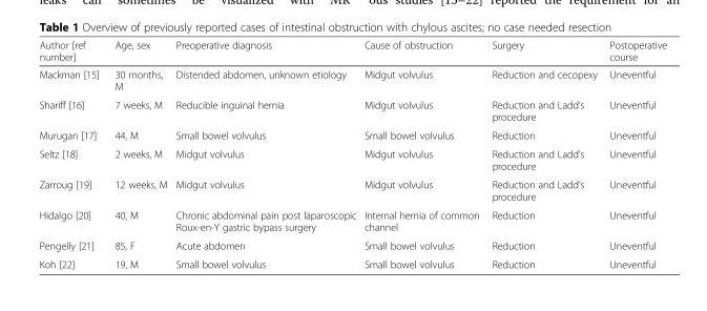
<table><thead><tr><td>Author [ref number]</td><td>Age, sex</td><td>Preoperative diagnosis</td><td>Cause of obstruction</td><td>Surgery</td><td>Postoperative course</td></tr></thead><tbody><tr><td>Mackman [15]</td><td>30 months, M</td><td>Distended abdomen, unknown etiology</td><td>Midgut volvulus</td><td>Reduction and cecopexy</td><td>Uneventful</td></tr><tr><td>Shariff [16]</td><td>7 weeks, M</td><td>Reducible inguinal hernia</td><td>Midgut volvulus</td><td>Reduction and Ladd’s procedure</td><td>Uneventful</td></tr><tr><td>Murugan [17]</td><td>44, M</td><td>Small bowel volvulus</td><td>Small bowel volvulus</td><td>Reduction</td><td>Uneventful</td></tr><tr><td>Seltz [18]</td><td>2 weeks, M</td><td>Midgut volvulus</td><td>Midgut volvulus</td><td>Reduction and Ladd’s procedure</td><td>Uneventful</td></tr><tr><td>Zarroug [19]</td><td>12 weeks, M</td><td>Midgut volvulus</td><td>Midgut volvulus</td><td>Reduction and Ladd’s procedure</td><td>Uneventful</td></tr><tr><td>Hidalgo [20]</td><td>40, M</td><td>Chronic abdominal pain post laparoscopic Roux-en-Y gastric bypass surgery</td><td>Internal hernia of common channel</td><td>Reduction</td><td>Uneventful</td></tr><tr><td>Pengelly [21]</td><td>85, F</td><td>Acute abdomen</td><td>Small bowel volvulus</td><td>Reduction</td><td>Uneventful</td></tr><tr><td>Koh [22]</td><td>19, M</td><td>Small bowel volvulus</td><td>Small bowel volvulus</td><td>Reduction</td><td>Uneventful</td></tr></tbody></table>